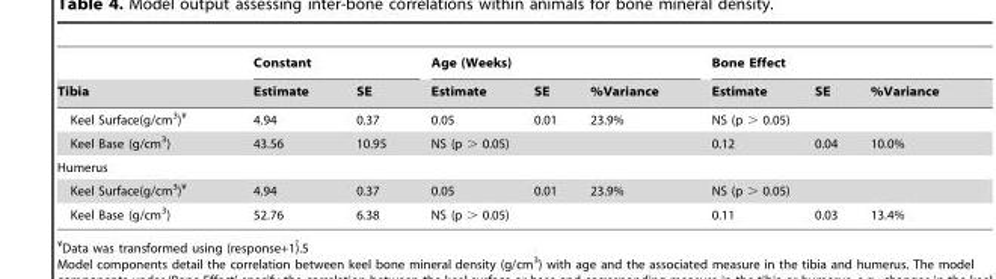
<table><thead><tr><td rowspan="2">Tibia</td><td colspan="2">Constant</td><td colspan="3">Age (Weeks)</td><td colspan="3">Bone Effect</td></tr><tr><td>Estimate</td><td>SE</td><td>Estimate</td><td>SE</td><td>%Variance</td><td>Estimate</td><td>SE</td><td>%Variance</td></tr></thead><tbody><tr><td>Keel Surface(g/cm<sup>3</sup>)¥</td><td>4.94</td><td>0.37</td><td>0.05</td><td>0.01</td><td>23.9%</td><td colspan="3">NS (p &gt; 0.05)</td></tr><tr><td>Keel Base (g/cm<sup>3</sup>)</td><td>43.56</td><td>10.95</td><td colspan="3">NS (p &gt; 0.05)</td><td>0.12</td><td>0.04</td><td>10.0%</td></tr><tr><td colspan="9">Humerus</td></tr><tr><td>Keel Surface(g/cm<sup>3</sup>)¥</td><td>4.94</td><td>0.37</td><td>0.05</td><td>0.01</td><td>23.9%</td><td colspan="3">NS (p &gt; 0.05)</td></tr><tr><td>Keel Base (g/cm<sup>3</sup>)</td><td>52.76</td><td>6.38</td><td colspan="3">NS (p &gt; 0.05)</td><td>0.11</td><td>0.03</td><td>13.4%</td></tr></tbody></table>